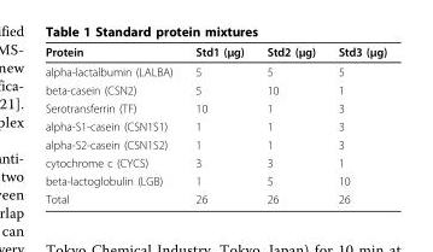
<table><thead><tr><td>Protein</td><td>Std1 (μg)</td><td>Std2 (μg)</td><td>Std3 (μg)</td></tr></thead><tbody><tr><td>alpha-lactalbumin (LALBA)</td><td>5</td><td>5</td><td>5</td></tr><tr><td>beta-casein (CSN2)</td><td>5</td><td>10</td><td>1</td></tr><tr><td>Serotransferrin (TF)</td><td>10</td><td>1</td><td>3</td></tr><tr><td>alpha-S1-casein (CSN1S1)</td><td>1</td><td>1</td><td>3</td></tr><tr><td>alpha-S2-casein (CSN1S2)</td><td>1</td><td>1</td><td>3</td></tr><tr><td>cytochrome c (CYCS)</td><td>3</td><td>3</td><td>1</td></tr><tr><td>beta-lactoglobulin (LGB)</td><td>1</td><td>5</td><td>10</td></tr><tr><td>Total</td><td>26</td><td>26</td><td>26</td></tr></tbody></table>